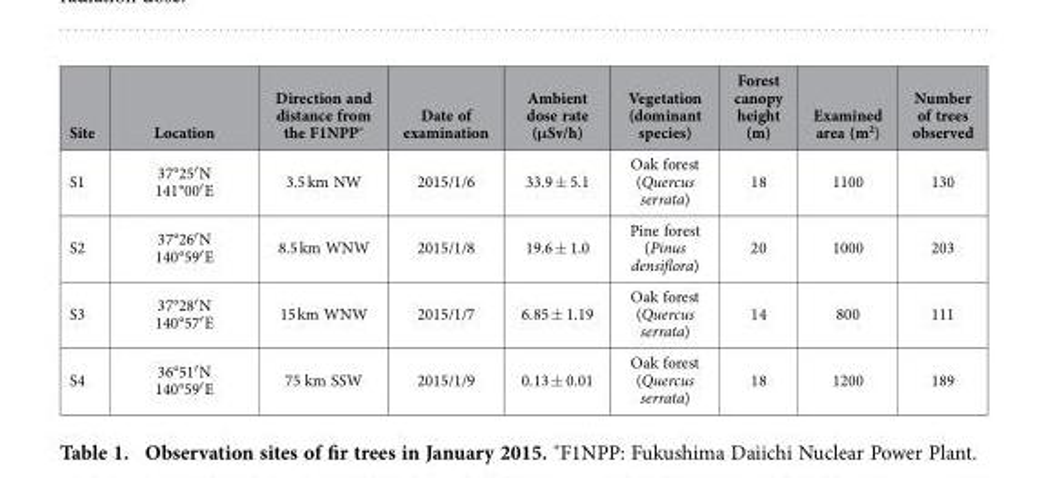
<table><thead><tr><td>Site</td><td>Location</td><td>Direction and distance from the F1NPP*</td><td>Date of examination</td><td>Ambient dose rate (μSv/h)</td><td>Vegetation (dominant species)</td><td>Forest canopy height (m)</td><td>Examined area (m<sup>2</sup>)</td><td>Number of trees observed</td></tr></thead><tbody><tr><td>S1</td><td>37°25′ N 141°00′ E</td><td>3.5 km NW</td><td>2015/1/6</td><td>33.9 ± 5.1</td><td>Oak forest (Quercus serrata)</td><td>18</td><td>1100</td><td>130</td></tr><tr><td>S2</td><td>37°26′ N 140°59′ E</td><td>8.5 km WNW</td><td>2015/1/8</td><td>19.6 ± 1.0</td><td>Pine forest (Pinus densiflora)</td><td>20</td><td>1000</td><td>203</td></tr><tr><td>S3</td><td>37°28′ N 140°57′ E</td><td>15 km WNW</td><td>2015/1/7</td><td>6.85 ± 1.19</td><td>Oak forest (Quercus serrata)</td><td>14</td><td>800</td><td>111</td></tr><tr><td>S4</td><td>36°51′ N 140°59′ E</td><td>75 km SSW</td><td>2015/1/9</td><td>0.13 ± 0.01</td><td>Oak forest (Quercus serrata)</td><td>18</td><td>1200</td><td>189</td></tr></tbody></table>